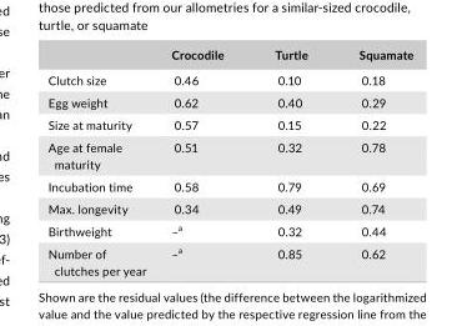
<table><thead><tr><td></td><td>Crocodile</td><td>Turtle</td><td>Squamate</td></tr></thead><tbody><tr><td>Clutch size</td><td>0.46</td><td>0.10</td><td>0.18</td></tr><tr><td>Egg weight</td><td>0.62</td><td>0.40</td><td>0.29</td></tr><tr><td>Size at maturity</td><td>0.57</td><td>0.15</td><td>0.22</td></tr><tr><td>Age at female maturity</td><td>0.51</td><td>0.32</td><td>0.78</td></tr><tr><td>Incubation time</td><td>0.58</td><td>0.79</td><td>0.69</td></tr><tr><td>Max. longevity</td><td>0.34</td><td>0.49</td><td>0.74</td></tr><tr><td>Birthweight</td><td>–a</td><td>0.32</td><td>0.44</td></tr><tr><td>Number of clutches per year</td><td>–a</td><td>0.85</td><td>0.62</td></tr></tbody></table>